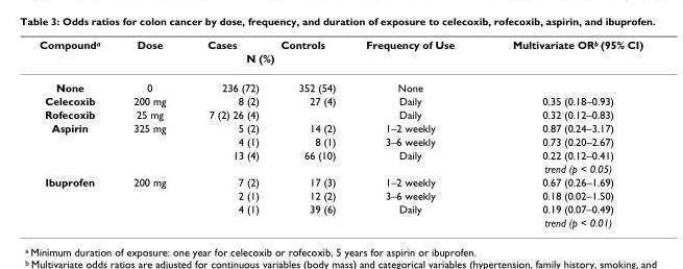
<table><thead><tr><td rowspan="2">Compound<sup>a</sup></td><td rowspan="2">Dose</td><td>Cases</td><td>Controls</td><td rowspan="2">Frequency of Use</td><td rowspan="2">Multivariate ORb (95% CI)</td></tr><tr><td colspan="2">N (%)</td></tr></thead><tbody><tr><td>None</td><td>0</td><td>236 (72)</td><td>352 (54)</td><td>None</td><td></td></tr><tr><td>Celecoxib</td><td>200 mg</td><td>8 (2)</td><td>27 (4)</td><td>Daily</td><td>0.35 (0.18–0.93)</td></tr><tr><td>Rofecoxib</td><td>25 mg</td><td>7 (2) 26 (4)</td><td></td><td>Daily</td><td>0.32 (0.12–0.83)</td></tr><tr><td rowspan="4">Aspirin</td><td>325 mg</td><td>5 (2)</td><td>14 (2)</td><td>1–2 weekly</td><td>0.87 (0.24–3.17)</td></tr><tr><td></td><td>4 (1)</td><td>8 (1)</td><td>3–6 weekly</td><td>0.73 (0.20–2.67)</td></tr><tr><td></td><td>13 (4)</td><td>66 (10)</td><td>Daily</td><td>0.22 (0.12–0.41)</td></tr><tr><td></td><td></td><td></td><td></td><td>trend (p &lt; 0.05)</td></tr><tr><td rowspan="4">Ibuprofen</td><td>200 mg</td><td>7 (2)</td><td>17 (3)</td><td>1–2 weekly</td><td>0.67 (0.26–1.69)</td></tr><tr><td></td><td>2 (1)</td><td>12 (2)</td><td>3–6 weekly</td><td>0.18 (0.02–1.50)</td></tr><tr><td></td><td>4 (1)</td><td>39 (6)</td><td>Daily</td><td>0.19 (0.07–0.49)</td></tr><tr><td></td><td></td><td></td><td></td><td>trend (p &lt; 0.01)</td></tr></tbody></table>